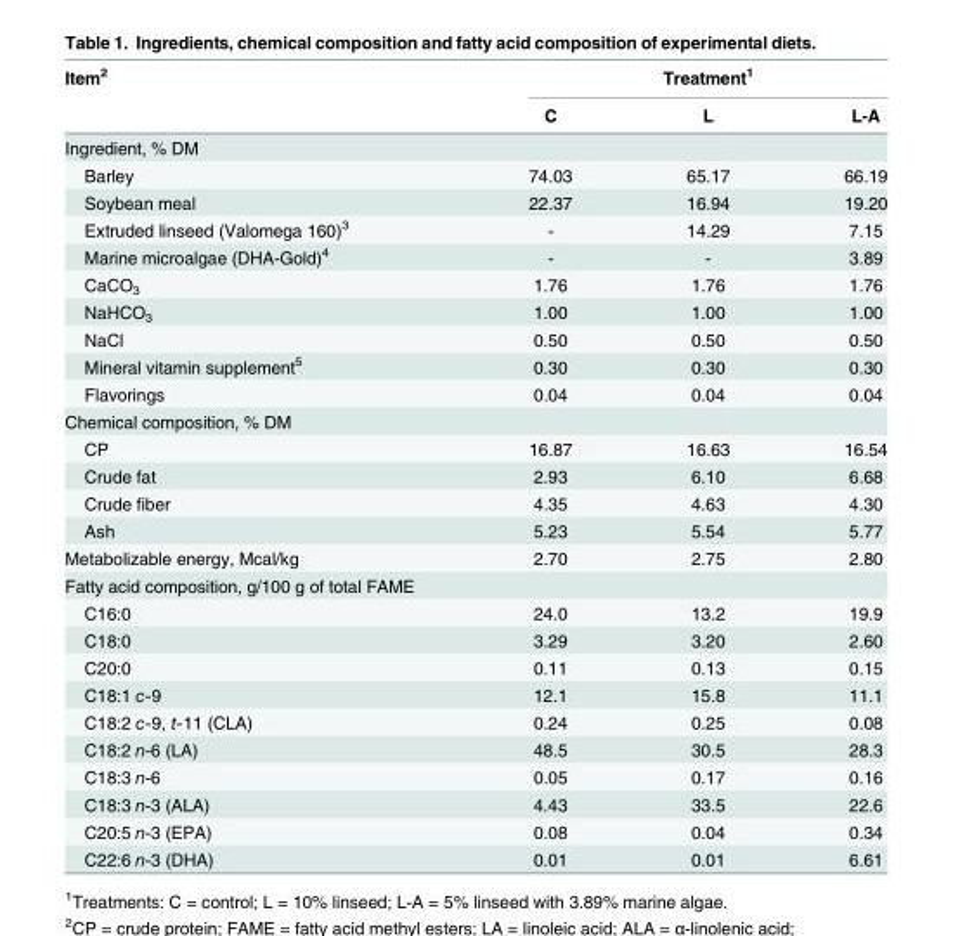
<table><thead><tr><td rowspan="2">Item<sup>2</sup></td><td colspan="3">Treatment<sup>1</sup></td></tr><tr><td>C</td><td>L</td><td>L-A</td></tr></thead><tbody><tr><td colspan="4">Ingredient, % DM</td></tr><tr><td>Barley</td><td>74.03</td><td>65.17</td><td>66.19</td></tr><tr><td>Soybean meal</td><td>22.37</td><td>16.94</td><td>19.20</td></tr><tr><td>Extruded linseed (Valomega 160)<sup>3</sup></td><td>-</td><td>14.29</td><td>7.15</td></tr><tr><td>Marine microalgae (DHA-Gold)<sup>4</sup></td><td>-</td><td>-</td><td>3.89</td></tr><tr><td>CaCO<sub>3</sub></td><td>1.76</td><td>1.76</td><td>1.76</td></tr><tr><td>NaHCO<sub>3</sub></td><td>1.00</td><td>1.00</td><td>1.00</td></tr><tr><td>NaCl</td><td>0.50</td><td>0.50</td><td>0.50</td></tr><tr><td>Mineral vitamin supplement<sup>5</sup></td><td>0.30</td><td>0.30</td><td>0.30</td></tr><tr><td>Flavorings</td><td>0.04</td><td>0.04</td><td>0.04</td></tr><tr><td colspan="4">Chemical composition, % DM</td></tr><tr><td>CP</td><td>16.87</td><td>16.63</td><td>16.54</td></tr><tr><td>Crude fat</td><td>2.93</td><td>6.10</td><td>6.68</td></tr><tr><td>Crude fiber</td><td>4.35</td><td>4.63</td><td>4.30</td></tr><tr><td>Ash</td><td>5.23</td><td>5.54</td><td>5.77</td></tr><tr><td>Metabolizable energy, Mcal/kg</td><td>2.70</td><td>2.75</td><td>2.80</td></tr><tr><td colspan="4">Fatty acid composition, g/100 g of total FAME</td></tr><tr><td>C16:0</td><td>24.0</td><td>13.2</td><td>19.9</td></tr><tr><td>C18:0</td><td>3.29</td><td>3.20</td><td>2.60</td></tr><tr><td>C20:0</td><td>0.11</td><td>0.13</td><td>0.15</td></tr><tr><td>C18:1 c-9</td><td>12.1</td><td>15.8</td><td>11.1</td></tr><tr><td>C18:2 c-9, t-11 (CLA)</td><td>0.24</td><td>0.25</td><td>0.08</td></tr><tr><td>C18:2 n-6 (LA)</td><td>48.5</td><td>30.5</td><td>28.3</td></tr><tr><td>C18:3 n-6</td><td>0.05</td><td>0.17</td><td>0.16</td></tr><tr><td>C18:3 n-3 (ALA)</td><td>4.43</td><td>33.5</td><td>22.6</td></tr><tr><td>C20:5 n-3 (EPA)</td><td>0.08</td><td>0.04</td><td>0.34</td></tr><tr><td>C22:6 n-3 (DHA)</td><td>0.01</td><td>0.01</td><td>6.61</td></tr></tbody></table>